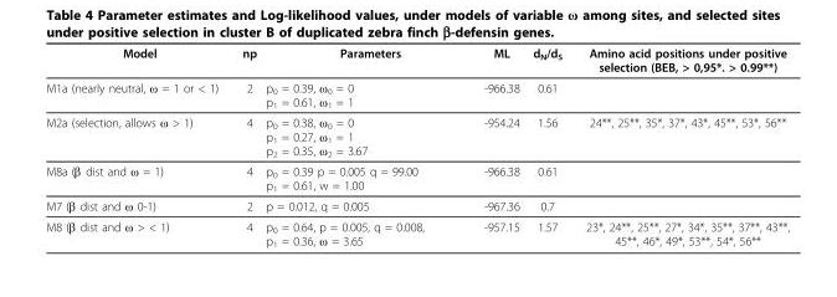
<table><thead><tr><td>Model</td><td>np</td><td>Parameters</td><td>ML</td><td>d<sub>N</sub>/d<sub>S</sub></td><td>Amino acid positions under positive selection (BEB, &gt; 0,95*. &gt; 0.99**)</td></tr></thead><tbody><tr><td>M1a (nearly neutral, ω = 1 or &lt; 1)</td><td>2</td><td>p<sub>0</sub> = 0.39, ω<sub>0</sub> = 0 p<sub>1</sub> = 0.61, ω<sub>1</sub> = 1</td><td>-966.38</td><td>0.61</td><td></td></tr><tr><td>M2a (selection, allows ω &gt; 1)</td><td>4</td><td>p<sub>0</sub> = 0.38, ω<sub>0</sub> = 0 p<sub>1</sub> = 0.27, ω<sub>1</sub> = 1 p<sub>2</sub> = 0.35, ω<sub>2</sub> = 3.67</td><td>-954.24</td><td>1.56</td><td>24**, 25**, 35*, 37*, 43*, 45**, 53*, 56**</td></tr><tr><td>M8a (β dist and ω = 1)</td><td>4</td><td>p<sub>0</sub> = 0.39 p = 0.005 q = 99.00 p<sub>1</sub> = 0.61, w = 1.00</td><td>-966.38</td><td>0.61</td><td></td></tr><tr><td>M7 (β dist and ω 0-1)</td><td>2</td><td>p = 0.012, q = 0.005</td><td>-967.36</td><td>0.7</td><td></td></tr><tr><td>M8 (β dist and ω &gt; &lt; 1)</td><td>4</td><td>p<sub>0</sub> = 0.64, p = 0.005, q = 0.008, p<sub>1</sub> = 0.36, ω = 3.65</td><td>-957.15</td><td>1.57</td><td>23*, 24**, 25**, 27*, 34*, 35**, 37**, 43**, 45**, 46*, 49*, 53**, 54*, 56**</td></tr></tbody></table>